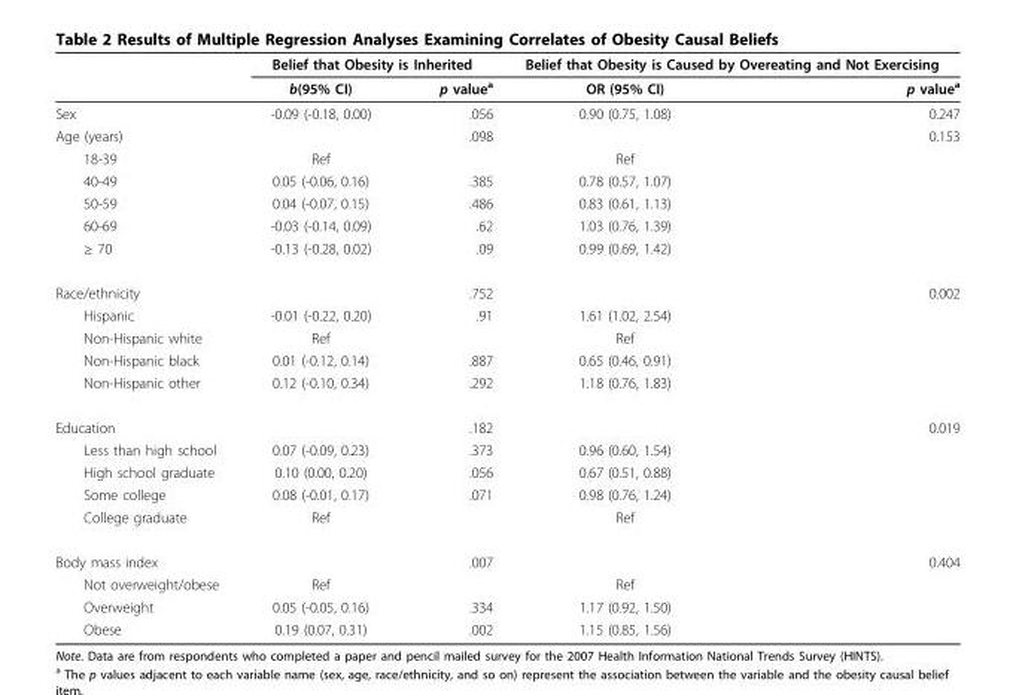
<table><thead><tr><td rowspan="2"></td><td colspan="2">Belief that Obesity is Inherited</td><td colspan="2">Belief that Obesity is Caused by Overeating and Not Exercising</td></tr><tr><td>b(95% CI)</td><td>p value<sup>a</sup></td><td>OR (95% CI)</td><td>p value<sup>a</sup></td></tr></thead><tbody><tr><td>Sex</td><td>-0.09 (-0.18, 0.00)</td><td>.056</td><td>0.90 (0.75, 1.08)</td><td>0.247</td></tr><tr><td>Age (years)</td><td></td><td>.098</td><td></td><td>0.153</td></tr><tr><td>18-39</td><td>Ref</td><td></td><td>Ref</td><td></td></tr><tr><td>40-49</td><td>0.05 (-0.06, 0.16)</td><td>.385</td><td>0.78 (0.57, 1.07)</td><td></td></tr><tr><td>50-59</td><td>0.04 (-0.07, 0.15)</td><td>.486</td><td>0.83 (0.61, 1.13)</td><td></td></tr><tr><td>60-69</td><td>-0.03 (-0.14, 0.09)</td><td>.62</td><td>1.03 (0.76, 1.39)</td><td></td></tr><tr><td>≥ 70</td><td>-0.13 (-0.28, 0.02)</td><td>.09</td><td>0.99 (0.69, 1.42)</td><td></td></tr><tr><td>Race/ethnicity</td><td></td><td>.752</td><td></td><td>0.002</td></tr><tr><td>Hispanic</td><td>-0.01 (-0.22, 0.20)</td><td>.91</td><td>1.61 (1.02, 2.54)</td><td></td></tr><tr><td>Non-Hispanic white</td><td>Ref</td><td></td><td>Ref</td><td></td></tr><tr><td>Non-Hispanic black</td><td>0.01 (-0.12, 0.14)</td><td>.887</td><td>0.65 (0.46, 0.91)</td><td></td></tr><tr><td>Non-Hispanic other</td><td>0.12 (-0.10, 0.34)</td><td>.292</td><td>1.18 (0.76, 1.83)</td><td></td></tr><tr><td>Education</td><td></td><td>.182</td><td></td><td>0.019</td></tr><tr><td>Less than high school</td><td>0.07 (-0.09, 0.23)</td><td>.373</td><td>0.96 (0.60, 1.54)</td><td></td></tr><tr><td>High school graduate</td><td>0.10 (0.00, 0.20)</td><td>.056</td><td>0.67 (0.51, 0.88)</td><td></td></tr><tr><td>Some college</td><td>0.08 (-0.01, 0.17)</td><td>.071</td><td>0.98 (0.76, 1.24)</td><td></td></tr><tr><td>College graduate</td><td>Ref</td><td></td><td>Ref</td><td></td></tr><tr><td>Body mass index</td><td></td><td>.007</td><td></td><td>0.404</td></tr><tr><td>Not overweight/obese</td><td>Ref</td><td></td><td>Ref</td><td></td></tr><tr><td>Overweight</td><td>0.05 (-0.05, 0.16)</td><td>.334</td><td>1.17 (0.92, 1.50)</td><td></td></tr><tr><td>Obese</td><td>0.19 (0.07, 0.31)</td><td>.002</td><td>1.15 (0.85, 1.56)</td><td></td></tr></tbody></table>